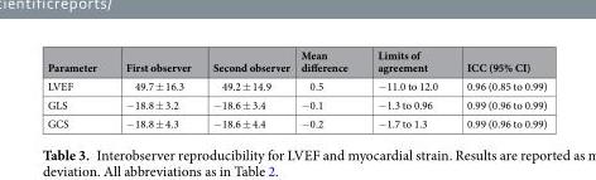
<table><thead><tr><td>Parameter</td><td>First observer</td><td>Second observer</td><td>Mean difference</td><td>Limits of agreement</td><td>ICC (95% CI)</td></tr></thead><tbody><tr><td>LVEF</td><td>49.7 ± 16.3</td><td>49.2 ± 14.9</td><td>0.5</td><td>−11.0 to 12.0</td><td>0.96 (0.85 to 0.99)</td></tr><tr><td>GLS</td><td>−18.8 ± 3.2</td><td>−18.6 ± 3.4</td><td>−0.1</td><td>−1.3 to 0.96</td><td>0.99 (0.96 to 0.99)</td></tr><tr><td>GCS</td><td>−18.8 ± 4.3</td><td>−18.6 ± 4.4</td><td>−0.2</td><td>−1.7 to 1.3</td><td>0.99 (0.96 to 0.99)</td></tr></tbody></table>